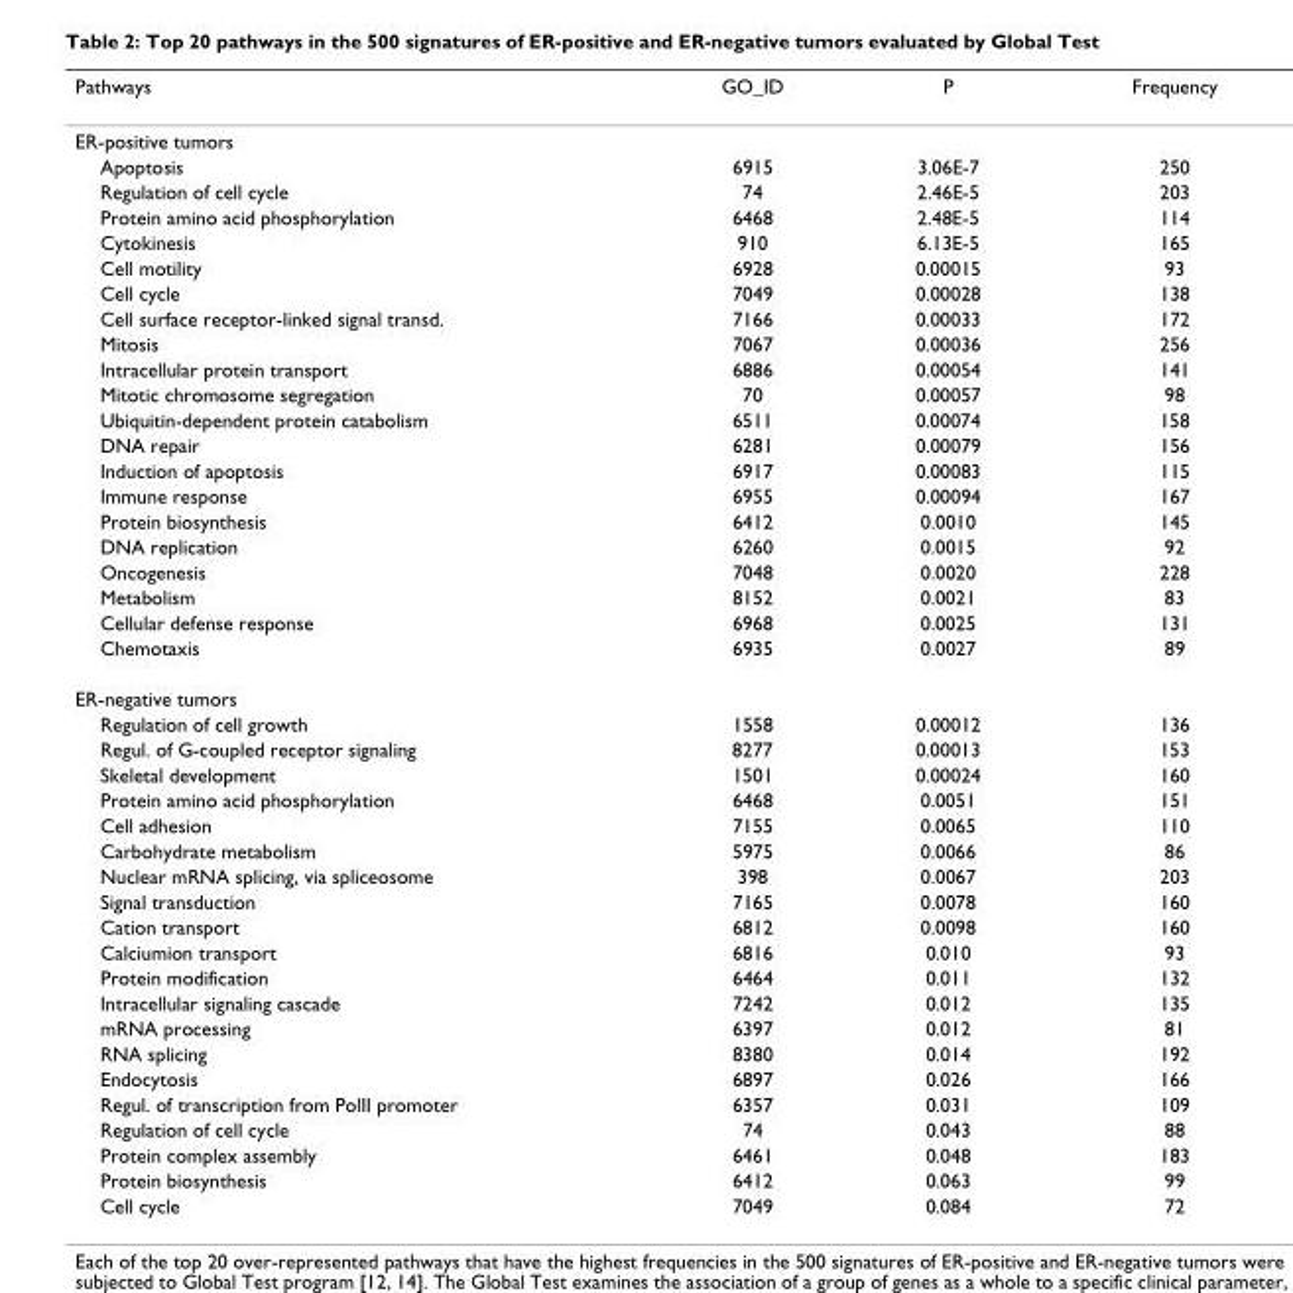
<table><thead><tr><td>Pathways</td><td>GO_ID</td><td>P</td><td>Frequency</td></tr></thead><tbody><tr><td colspan="4">ER-positive tumors</td></tr><tr><td>Apoptosis</td><td>6915</td><td>3.06E-7</td><td>250</td></tr><tr><td>Regulation of cell cycle</td><td>74</td><td>2.46E-5</td><td>203</td></tr><tr><td>Protein amino acid phosphorylation</td><td>6468</td><td>2.48E-5</td><td>114</td></tr><tr><td>Cytokinesis</td><td>910</td><td>6.13E-5</td><td>165</td></tr><tr><td>Cell motility</td><td>6928</td><td>0.00015</td><td>93</td></tr><tr><td>Cell cycle</td><td>7049</td><td>0.00028</td><td>138</td></tr><tr><td>Cell surface receptor-linked signal transd.</td><td>7166</td><td>0.00033</td><td>172</td></tr><tr><td>Mitosis</td><td>7067</td><td>0.00036</td><td>256</td></tr><tr><td>Intracellular protein transport</td><td>6886</td><td>0.00054</td><td>141</td></tr><tr><td>Mitotic chromosome segregation</td><td>70</td><td>0.00057</td><td>98</td></tr><tr><td>Ubiquitin-dependent protein catabolism</td><td>6511</td><td>0.00074</td><td>158</td></tr><tr><td>DNA repair</td><td>6281</td><td>0.00079</td><td>156</td></tr><tr><td>Induction of apoptosis</td><td>6917</td><td>0.00083</td><td>115</td></tr><tr><td>Immune response</td><td>6955</td><td>0.00094</td><td>167</td></tr><tr><td>Protein biosynthesis</td><td>6412</td><td>0.0010</td><td>145</td></tr><tr><td>DNA replication</td><td>6260</td><td>0.0015</td><td>92</td></tr><tr><td>Oncogenesis</td><td>7048</td><td>0.0020</td><td>228</td></tr><tr><td>Metabolism</td><td>8152</td><td>0.0021</td><td>83</td></tr><tr><td>Cellular defense response</td><td>6968</td><td>0.0025</td><td>131</td></tr><tr><td>Chemotaxis</td><td>6935</td><td>0.0027</td><td>89</td></tr><tr><td colspan="4">ER-negative tumors</td></tr><tr><td>Regulation of cell growth</td><td>1558</td><td>0.00012</td><td>136</td></tr><tr><td>Regul. of G-coupled receptor signaling</td><td>8277</td><td>0.00013</td><td>153</td></tr><tr><td>Skeletal development</td><td>1501</td><td>0.00024</td><td>160</td></tr><tr><td>Protein amino acid phosphorylation</td><td>6468</td><td>0.0051</td><td>151</td></tr><tr><td>Cell adhesion</td><td>7155</td><td>0.0065</td><td>110</td></tr><tr><td>Carbohydrate metabolism</td><td>5975</td><td>0.0066</td><td>86</td></tr><tr><td>Nuclear mRNA splicing, via spliceosome</td><td>398</td><td>0.0067</td><td>203</td></tr><tr><td>Signal transduction</td><td>7165</td><td>0.0078</td><td>160</td></tr><tr><td>Cation transport</td><td>6812</td><td>0.0098</td><td>160</td></tr><tr><td>Calciumion transport</td><td>6816</td><td>0.010</td><td>93</td></tr><tr><td>Protein modification</td><td>6464</td><td>0.011</td><td>132</td></tr><tr><td>Intracellular signaling cascade</td><td>7242</td><td>0.012</td><td>135</td></tr><tr><td>mRNA processing</td><td>6397</td><td>0.012</td><td>81</td></tr><tr><td>RNA splicing</td><td>8380</td><td>0.014</td><td>192</td></tr><tr><td>Endocytosis</td><td>6897</td><td>0.026</td><td>166</td></tr><tr><td>Regul. of transcription from PolII promoter</td><td>6357</td><td>0.031</td><td>109</td></tr><tr><td>Regulation of cell cycle</td><td>74</td><td>0.043</td><td>88</td></tr><tr><td>Protein complex assembly</td><td>6461</td><td>0.048</td><td>183</td></tr><tr><td>Protein biosynthesis</td><td>6412</td><td>0.063</td><td>99</td></tr><tr><td>Cell cycle</td><td>7049</td><td>0.084</td><td>72</td></tr></tbody></table>